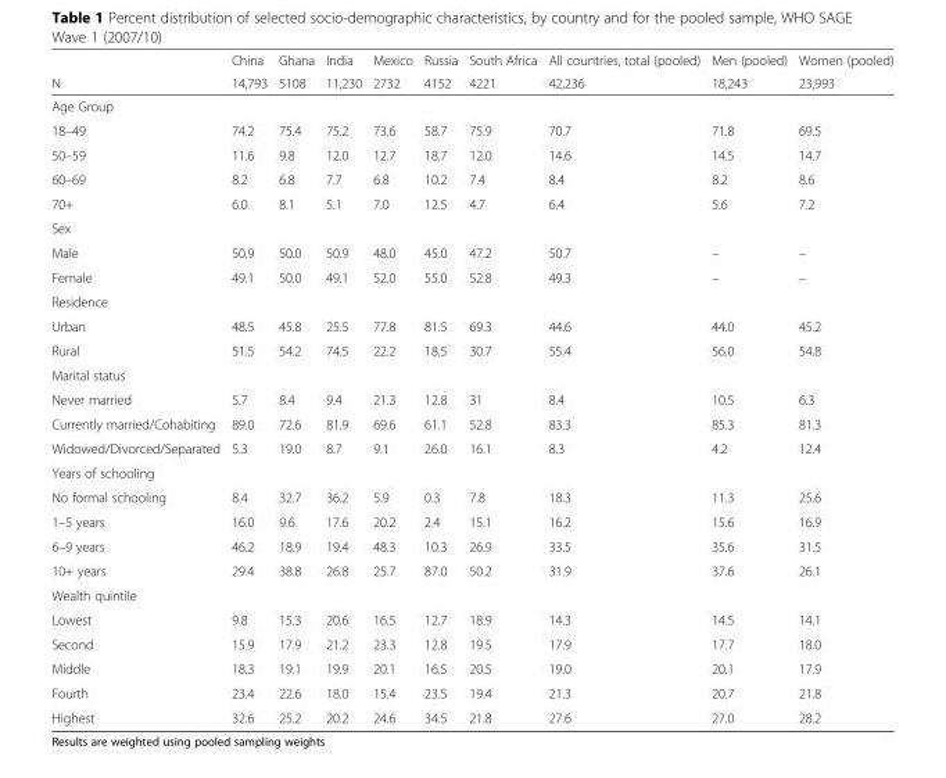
<table><thead><tr><td rowspan="2">N</td><td rowspan="2">China 14,793</td><td rowspan="2">Ghana 5108</td><td rowspan="2">India 11,230</td><td rowspan="2">Mexico 2732</td><td rowspan="2">Russia 4152</td><td rowspan="2">South Africa 4221</td><td rowspan="2">All countries, total (pooled) 42,236</td><td rowspan="2">Men (pooled) 18,243</td><td rowspan="2">Women (pooled) 23,993</td></tr><tr></tr></thead><tbody><tr><td colspan="10">Age Group</td></tr><tr><td>18–49</td><td>74.2</td><td>75.4</td><td>75.2</td><td>73.6</td><td>58.7</td><td>75.9</td><td>70.7</td><td>71.8</td><td>69.5</td></tr><tr><td>50–59</td><td>11.6</td><td>9.8</td><td>12.0</td><td>12.7</td><td>18.7</td><td>12.0</td><td>14.6</td><td>14.5</td><td>14.7</td></tr><tr><td>60–69</td><td>8.2</td><td>6.8</td><td>7.7</td><td>6.8</td><td>10.2</td><td>7.4</td><td>8.4</td><td>8.2</td><td>8.6</td></tr><tr><td>70+</td><td>6.0</td><td>8.1</td><td>5.1</td><td>7.0</td><td>12.5</td><td>4.7</td><td>6.4</td><td>5.6</td><td>7.2</td></tr><tr><td colspan="10">Sex</td></tr><tr><td>Male</td><td>50.9</td><td>50.0</td><td>50.9</td><td>48.0</td><td>45.0</td><td>47.2</td><td>50.7</td><td>–</td><td>–</td></tr><tr><td>Female</td><td>49.1</td><td>50.0</td><td>49.1</td><td>52.0</td><td>55.0</td><td>52.8</td><td>49.3</td><td>–</td><td>–</td></tr><tr><td colspan="10">Residence</td></tr><tr><td>Urban</td><td>48.5</td><td>45.8</td><td>25.5</td><td>77.8</td><td>81.5</td><td>69.3</td><td>44.6</td><td>44.0</td><td>45.2</td></tr><tr><td>Rural</td><td>51.5</td><td>54.2</td><td>74.5</td><td>22.2</td><td>18.5</td><td>30.7</td><td>55.4</td><td>56.0</td><td>54.8</td></tr><tr><td colspan="10">Marital status</td></tr><tr><td>Never married</td><td>5.7</td><td>8.4</td><td>9.4</td><td>21.3</td><td>12.8</td><td>31</td><td>8.4</td><td>10.5</td><td>6.3</td></tr><tr><td>Currently married/Cohabiting</td><td>89.0</td><td>72.6</td><td>81.9</td><td>69.6</td><td>61.1</td><td>52.8</td><td>83.3</td><td>85.3</td><td>81.3</td></tr><tr><td>Widowed/Divorced/Separated</td><td>5.3</td><td>19.0</td><td>8.7</td><td>9.1</td><td>26.0</td><td>16.1</td><td>8.3</td><td>4.2</td><td>12.4</td></tr><tr><td colspan="10">Years of schooling</td></tr><tr><td>No formal schooling</td><td>8.4</td><td>32.7</td><td>36.2</td><td>5.9</td><td>0.3</td><td>7.8</td><td>18.3</td><td>11.3</td><td>25.6</td></tr><tr><td>1–5 years</td><td>16.0</td><td>9.6</td><td>17.6</td><td>20.2</td><td>2.4</td><td>15.1</td><td>16.2</td><td>15.6</td><td>16.9</td></tr><tr><td>6–9 years</td><td>46.2</td><td>18.9</td><td>19.4</td><td>48.3</td><td>10.3</td><td>26.9</td><td>33.5</td><td>35.6</td><td>31.5</td></tr><tr><td>10+ years</td><td>29.4</td><td>38.8</td><td>26.8</td><td>25.7</td><td>87.0</td><td>50.2</td><td>31.9</td><td>37.6</td><td>26.1</td></tr><tr><td colspan="10">Wealth quintile</td></tr><tr><td>Lowest</td><td>9.8</td><td>15.3</td><td>20.6</td><td>16.5</td><td>12.7</td><td>18.9</td><td>14.3</td><td>14.5</td><td>14.1</td></tr><tr><td>Second</td><td>15.9</td><td>17.9</td><td>21.2</td><td>23.3</td><td>12.8</td><td>19.5</td><td>17.9</td><td>17.7</td><td>18.0</td></tr><tr><td>Middle</td><td>18.3</td><td>19.1</td><td>19.9</td><td>20.1</td><td>16.5</td><td>20.5</td><td>19.0</td><td>20.1</td><td>17.9</td></tr><tr><td>Fourth</td><td>23.4</td><td>22.6</td><td>18.0</td><td>15.4</td><td>23.5</td><td>19.4</td><td>21.3</td><td>20.7</td><td>21.8</td></tr><tr><td>Highest</td><td>32.6</td><td>25.2</td><td>20.2</td><td>24.6</td><td>34.5</td><td>21.8</td><td>27.6</td><td>27.0</td><td>28.2</td></tr></tbody></table>